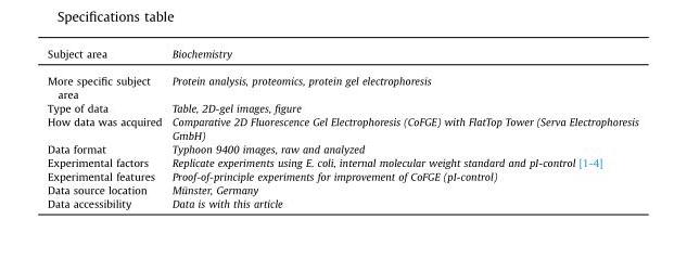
<table><tbody><tr><td>Subject area</td><td>Biochemistry</td></tr><tr><td>More specific subject area</td><td>Protein analysis, proteomics, protein gel electrophoresis</td></tr><tr><td>Type of data</td><td>Table, 2D-gel images, figure</td></tr><tr><td>How data was acquired</td><td>Comparative 2D Fluorescence Gel Electrophoresis (CoFGE) with FlatTop Tower (Serva Electrophoresis GmbH)</td></tr><tr><td>Data format</td><td>Typhoon 9400 images, raw and analyzed</td></tr><tr><td>Experimental factors</td><td>Replicate experiments using E. coli, internal molecular weight standard and pI-control [1-4]</td></tr><tr><td>Experimental features</td><td>Proof-of-principle experiments for improvement of CoFGE (pI-control)</td></tr><tr><td>Data source location</td><td>Münster, Germany</td></tr><tr><td>Data accessibility</td><td>Data is with this article</td></tr></tbody></table>